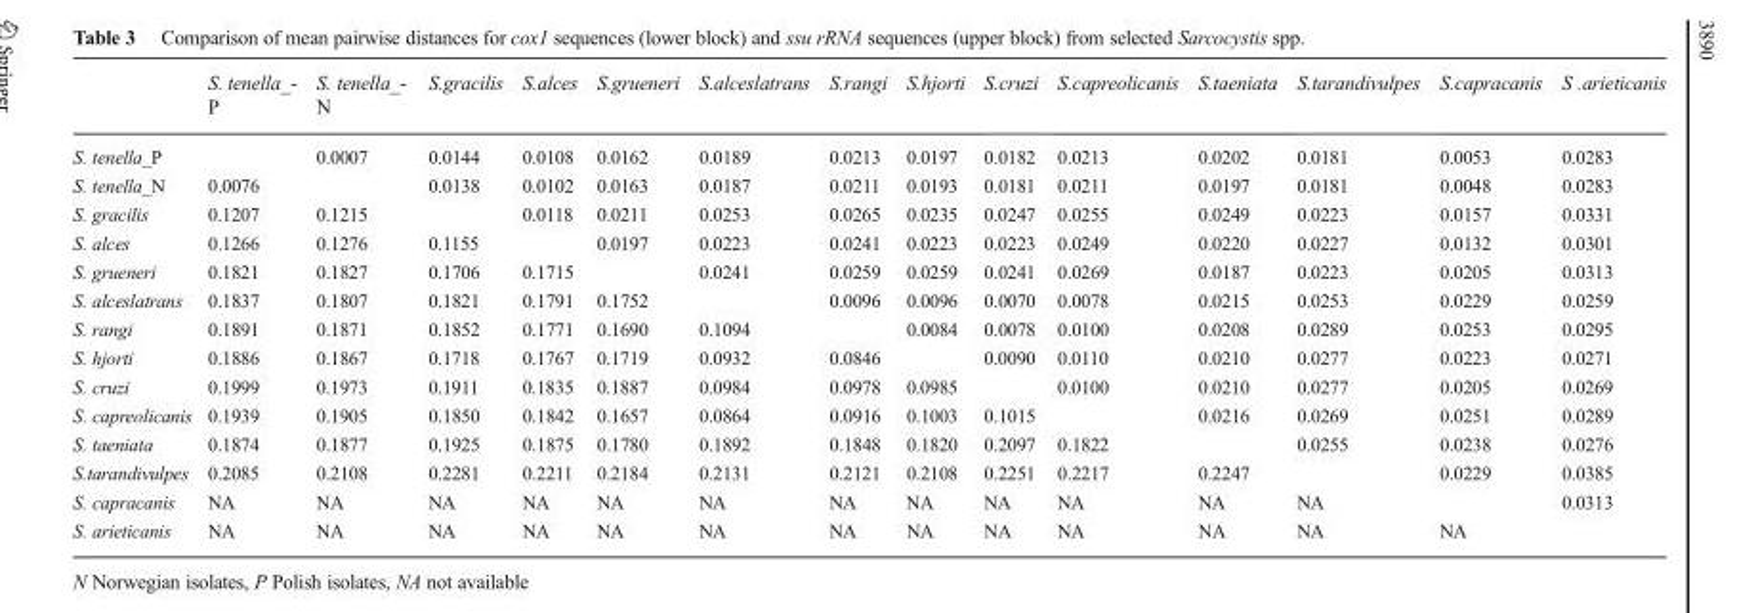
<table><thead><tr><td></td><td>S. tenella_- P</td><td>S. tenella_- N</td><td>S.gracilis</td><td>S.alces</td><td>S.grueneri</td><td>S.alceslatrans</td><td>S.rangi</td><td>S.hjorti</td><td>S.cruzi</td><td>S.capreolicanis</td><td>S.taeniata</td><td>S.tarandivulpes</td><td>S.capracanis</td><td>S .arieticanis</td></tr></thead><tbody><tr><td>S. tenella_P</td><td></td><td>0.0007</td><td>0.0144</td><td>0.0108</td><td>0.0162</td><td>0.0189</td><td>0.0213</td><td>0.0197</td><td>0.0182</td><td>0.0213</td><td>0.0202</td><td>0.0181</td><td>0.0053</td><td>0.0283</td></tr><tr><td>S. tenella_N</td><td>0.0076</td><td></td><td>0.0138</td><td>0.0102</td><td>0.0163</td><td>0.0187</td><td>0.0211</td><td>0.0193</td><td>0.0181</td><td>0.0211</td><td>0.0197</td><td>0.0181</td><td>0.0048</td><td>0.0283</td></tr><tr><td>S. gracilis</td><td>0.1207</td><td>0.1215</td><td></td><td>0.0118</td><td>0.0211</td><td>0.0253</td><td>0.0265</td><td>0.0235</td><td>0.0247</td><td>0.0255</td><td>0.0249</td><td>0.0223</td><td>0.0157</td><td>0.0331</td></tr><tr><td>S. alces</td><td>0.1266</td><td>0.1276</td><td>0.1155</td><td></td><td>0.0197</td><td>0.0223</td><td>0.0241</td><td>0.0223</td><td>0.0223</td><td>0.0249</td><td>0.0220</td><td>0.0227</td><td>0.0132</td><td>0.0301</td></tr><tr><td>S. grueneri</td><td>0.1821</td><td>0.1827</td><td>0.1706</td><td>0.1715</td><td></td><td>0.0241</td><td>0.0259</td><td>0.0259</td><td>0.0241</td><td>0.0269</td><td>0.0187</td><td>0.0223</td><td>0.0205</td><td>0.0313</td></tr><tr><td>S. alceslatrans</td><td>0.1837</td><td>0.1807</td><td>0.1821</td><td>0.1791</td><td>0.1752</td><td></td><td>0.0096</td><td>0.0096</td><td>0.0070</td><td>0.0078</td><td>0.0215</td><td>0.0253</td><td>0.0229</td><td>0.0259</td></tr><tr><td>S. rangi</td><td>0.1891</td><td>0.1871</td><td>0.1852</td><td>0.1771</td><td>0.1690</td><td>0.1094</td><td></td><td>0.0084</td><td>0.0078</td><td>0.0100</td><td>0.0208</td><td>0.0289</td><td>0.0253</td><td>0.0295</td></tr><tr><td>S. hjorti</td><td>0.1886</td><td>0.1867</td><td>0.1718</td><td>0.1767</td><td>0.1719</td><td>0.0932</td><td>0.0846</td><td></td><td>0.0090</td><td>0.0110</td><td>0.0210</td><td>0.0277</td><td>0.0223</td><td>0.0271</td></tr><tr><td>S. cruzi</td><td>0.1999</td><td>0.1973</td><td>0.1911</td><td>0.1835</td><td>0.1887</td><td>0.0984</td><td>0.0978</td><td>0.0985</td><td></td><td>0.0100</td><td>0.0210</td><td>0.0277</td><td>0.0205</td><td>0.0269</td></tr><tr><td>S. capreolicanis</td><td>0.1939</td><td>0.1905</td><td>0.1850</td><td>0.1842</td><td>0.1657</td><td>0.0864</td><td>0.0916</td><td>0.1003</td><td>0.1015</td><td></td><td>0.0216</td><td>0.0269</td><td>0.0251</td><td>0.0289</td></tr><tr><td>S. taeniata</td><td>0.1874</td><td>0.1877</td><td>0.1925</td><td>0.1875</td><td>0.1780</td><td>0.1892</td><td>0.1848</td><td>0.1820</td><td>0.2097</td><td>0.1822</td><td></td><td>0.0255</td><td>0.0238</td><td>0.0276</td></tr><tr><td>S.tarandivulpes</td><td>0.2085</td><td>0.2108</td><td>0.2281</td><td>0.2211</td><td>0.2184</td><td>0.2131</td><td>0.2121</td><td>0.2108</td><td>0.2251</td><td>0.2217</td><td>0.2247</td><td></td><td>0.0229</td><td>0.0385</td></tr><tr><td>S. capracanis</td><td>NA</td><td>NA</td><td>NA</td><td>NA</td><td>NA</td><td>NA</td><td>NA</td><td>NA</td><td>NA</td><td>NA</td><td>NA</td><td>NA</td><td></td><td>0.0313</td></tr><tr><td>S. arieticanis</td><td>NA</td><td>NA</td><td>NA</td><td>NA</td><td>NA</td><td>NA</td><td>NA</td><td>NA</td><td>NA</td><td>NA</td><td>NA</td><td>NA</td><td>NA</td><td></td></tr></tbody></table>